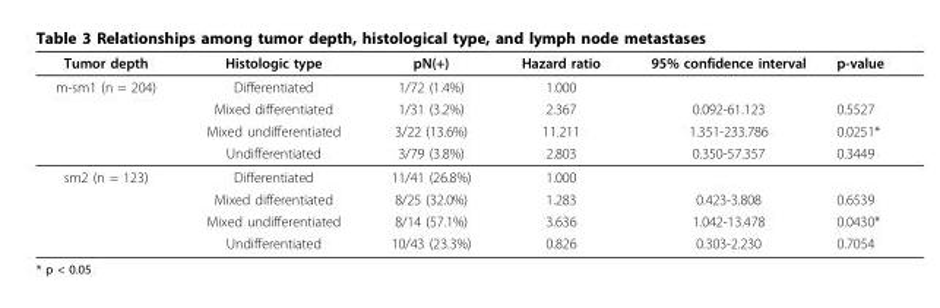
<table><thead><tr><td>Tumor depth</td><td>Histologic type</td><td>pN(+)</td><td>Hazard ratio</td><td>95% confidence interval</td><td>p-value</td></tr></thead><tbody><tr><td rowspan="4">m-sm1 (n = 204)</td><td>Differentiated</td><td>1/72 (1.4%)</td><td>1.000</td><td></td><td></td></tr><tr><td>Mixed differentiated</td><td>1/31 (3.2%)</td><td>2.367</td><td>0.092-61.123</td><td>0.5527</td></tr><tr><td>Mixed undifferentiated</td><td>3/22 (13.6%)</td><td>11.211</td><td>1.351-233.786</td><td>0.0251*</td></tr><tr><td>Undifferentiated</td><td>3/79 (3.8%)</td><td>2.803</td><td>0.350-57.357</td><td>0.3449</td></tr><tr><td rowspan="4">sm2 (n = 123)</td><td>Differentiated</td><td>11/41 (26.8%)</td><td>1.000</td><td></td><td></td></tr><tr><td>Mixed differentiated</td><td>8/25 (32.0%)</td><td>1.283</td><td>0.423-3.808</td><td>0.6539</td></tr><tr><td>Mixed undifferentiated</td><td>8/14 (57.1%)</td><td>3.636</td><td>1.042-13.478</td><td>0.0430*</td></tr><tr><td>Undifferentiated</td><td>10/43 (23.3%)</td><td>0.826</td><td>0.303-2.230</td><td>0.7054</td></tr></tbody></table>